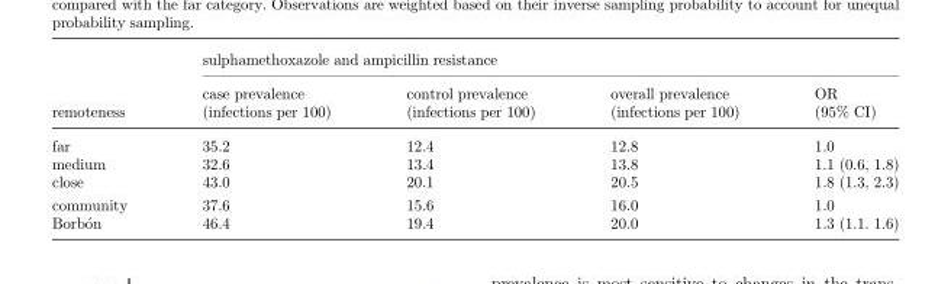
<table><thead><tr><td rowspan="2">remoteness</td><td colspan="4">sulphamethoxazole and ampicillin resistance</td></tr><tr><td>case prevalence (infections per 100)</td><td>control prevalence (infections per 100)</td><td>overall prevalence (infections per 100)</td><td>OR (95% CI)</td></tr></thead><tbody><tr><td>far</td><td>35.2</td><td>12.4</td><td>12.8</td><td>1.0</td></tr><tr><td>medium</td><td>32.6</td><td>13.4</td><td>13.8</td><td>1.1 (0.6, 1.8)</td></tr><tr><td>close</td><td>43.0</td><td>20.1</td><td>20.5</td><td>1.8 (1.3, 2.3)</td></tr><tr><td>community</td><td>37.6</td><td>15.6</td><td>16.0</td><td>1.0</td></tr><tr><td>Borbo´n</td><td>46.4</td><td>19.4</td><td>20.0</td><td>1.3 (1.1. 1.6)</td></tr></tbody></table>